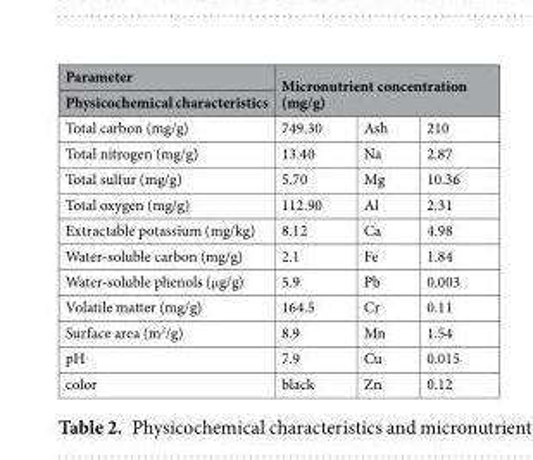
<table><thead><tr><td rowspan="3">Parameter Physicochemical characteristics Total carbon (mg/g)</td><td rowspan="2" colspan="3">Micronutrient concentration (mg/g)</td></tr><tr></tr><tr><td>749.30</td><td>Ash</td><td>210</td></tr></thead><tbody><tr><td>Total nitrogen (mg/g)</td><td>13.40</td><td>Na</td><td>2.87</td></tr><tr><td>Total sulfur (mg/g)</td><td>5.70</td><td>Mg</td><td>10.36</td></tr><tr><td>Total oxygen (mg/g)</td><td>112.90</td><td>Al</td><td>2.31</td></tr><tr><td>Extractable potassium (mg/kg)</td><td>8.12</td><td>Ca</td><td>4.98</td></tr><tr><td>Water-soluble carbon (mg/g)</td><td>2.1</td><td>Fe</td><td>1.84</td></tr><tr><td>Water-soluble phenols (μg/g)</td><td>5.9</td><td>Pb</td><td>0.003</td></tr><tr><td>Volatile matter (mg/g)</td><td>164.5</td><td>Cr</td><td>0.11</td></tr><tr><td>Surface area (m<sup>2</sup>/g)</td><td>8.9</td><td>Mn</td><td>1.54</td></tr><tr><td>pH</td><td>7.9</td><td>Cu</td><td>0.015</td></tr><tr><td>color</td><td>black</td><td>Zn</td><td>0.12</td></tr></tbody></table>